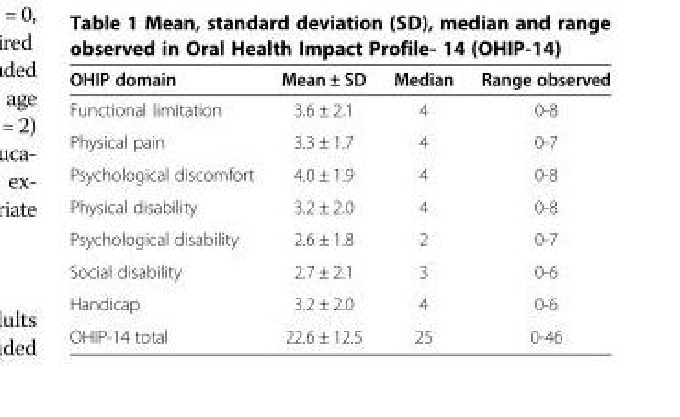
<table><thead><tr><td>OHIP domain</td><td>Mean ± SD</td><td>Median</td><td>Range observed</td></tr></thead><tbody><tr><td>Functional limitation</td><td>3.6 ± 2.1</td><td>4</td><td>0-8</td></tr><tr><td>Physical pain</td><td>3.3 ± 1.7</td><td>4</td><td>0-7</td></tr><tr><td>Psychological discomfort</td><td>4.0 ± 1.9</td><td>4</td><td>0-8</td></tr><tr><td>Physical disability</td><td>3.2 ± 2.0</td><td>4</td><td>0-8</td></tr><tr><td>Psychological disability</td><td>2.6 ± 1.8</td><td>2</td><td>0-7</td></tr><tr><td>Social disability</td><td>2.7 ± 2.1</td><td>3</td><td>0-6</td></tr><tr><td>Handicap</td><td>3.2 ± 2.0</td><td>4</td><td>0-6</td></tr><tr><td>OHIP-14 total</td><td>22.6 ± 12.5</td><td>25</td><td>0-46</td></tr></tbody></table>